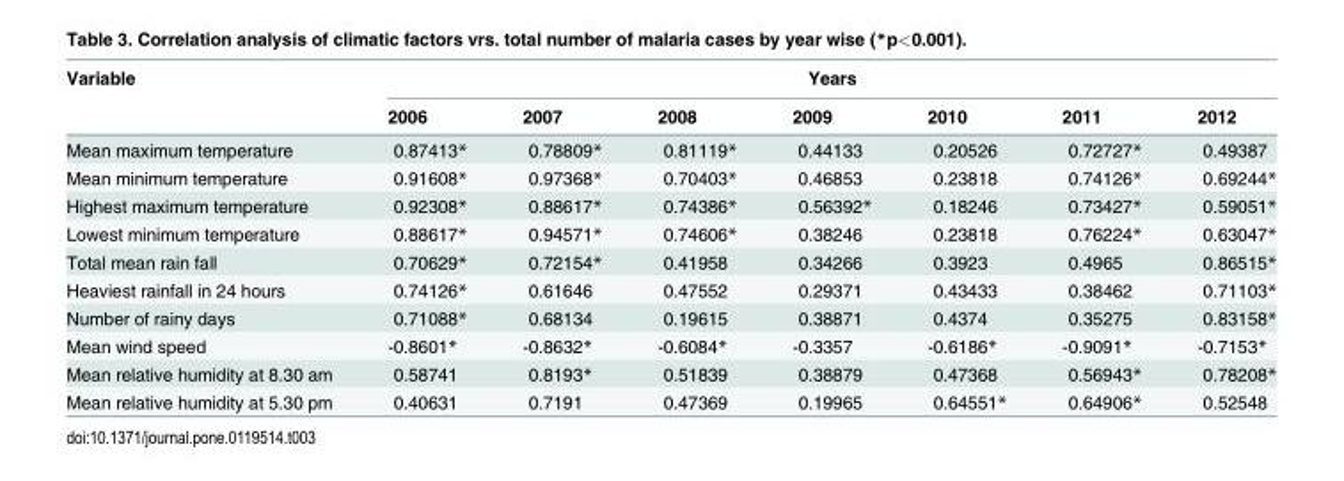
<table><thead><tr><td rowspan="2">Variable</td><td colspan="7">Years</td></tr><tr><td>2006</td><td>2007</td><td>2008</td><td>2009</td><td>2010</td><td>2011</td><td>2012</td></tr></thead><tbody><tr><td>Mean maximum temperature</td><td>0.87413*</td><td>0.78809*</td><td>0.81119*</td><td>0.44133</td><td>0.20526</td><td>0.72727*</td><td>0.49387</td></tr><tr><td>Mean minimum temperature</td><td>0.91608*</td><td>0.97368*</td><td>0.70403*</td><td>0.46853</td><td>0.23818</td><td>0.74126*</td><td>0.69244*</td></tr><tr><td>Highest maximum temperature</td><td>0.92308*</td><td>0.88617*</td><td>0.74386*</td><td>0.56392*</td><td>0.18246</td><td>0.73427*</td><td>0.59051*</td></tr><tr><td>Lowest minimum temperature</td><td>0.88617*</td><td>0.94571*</td><td>0.74606*</td><td>0.38246</td><td>0.23818</td><td>0.76224*</td><td>0.63047*</td></tr><tr><td>Total mean rain fall</td><td>0.70629*</td><td>0.72154*</td><td>0.41958</td><td>0.34266</td><td>0.3923</td><td>0.4965</td><td>0.86515*</td></tr><tr><td>Heaviest rainfall in 24 hours</td><td>0.74126*</td><td>0.61646</td><td>0.47552</td><td>0.29371</td><td>0.43433</td><td>0.38462</td><td>0.71103*</td></tr><tr><td>Number of rainy days</td><td>0.71088*</td><td>0.68134</td><td>0.19615</td><td>0.38871</td><td>0.4374</td><td>0.35275</td><td>0.83158*</td></tr><tr><td>Mean wind speed</td><td>-0.8601*</td><td>-0.8632*</td><td>-0.6084*</td><td>-0.3357</td><td>-0.6186*</td><td>-0.9091*</td><td>-0.7153*</td></tr><tr><td>Mean relative humidity at 8.30 am</td><td>0.58741</td><td>0.8193*</td><td>0.51839</td><td>0.38879</td><td>0.47368</td><td>0.56943*</td><td>0.78208*</td></tr><tr><td>Mean relative humidity at 5.30 pm</td><td>0.40631</td><td>0.7191</td><td>0.47369</td><td>0.19965</td><td>0.64551*</td><td>0.64906*</td><td>0.52548</td></tr></tbody></table>